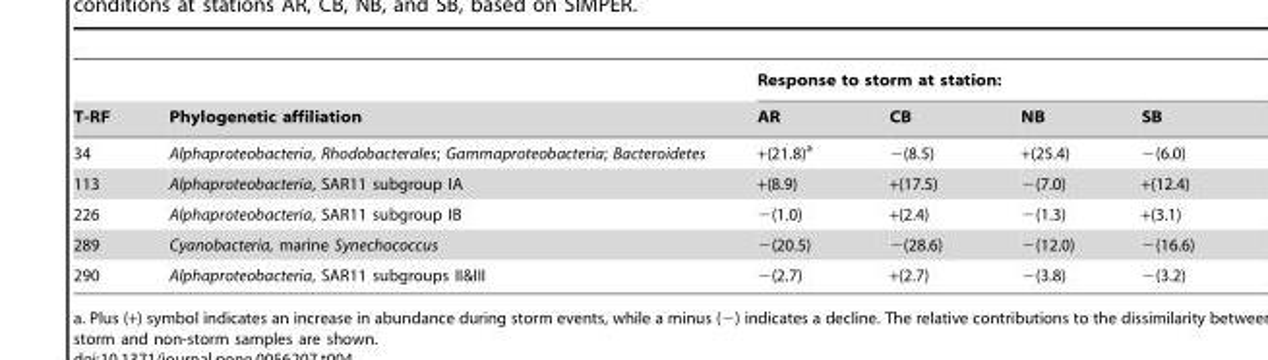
<table><thead><tr><td rowspan="2">T-RF</td><td rowspan="2">Phylogenetic affiliation</td><td colspan="4">Response to storm at station:</td></tr><tr><td>AR</td><td>CB</td><td>NB</td><td>SB</td></tr></thead><tbody><tr><td>34</td><td>Alphaproteobacteria, Rhodobacterales; Gammaproteobacteria; Bacteroidetes</td><td>+(21.8)<sup>a</sup></td><td>−(8.5)</td><td>+(25.4)</td><td>−(6.0)</td></tr><tr><td>113</td><td>Alphaproteobacteria, SAR11 subgroup IA</td><td>+(8.9)</td><td>+(17.5)</td><td>−(7.0)</td><td>+(12.4)</td></tr><tr><td>226</td><td>Alphaproteobacteria, SAR11 subgroup IB</td><td>−(1.0)</td><td>+(2.4)</td><td>−(1.3)</td><td>+(3.1)</td></tr><tr><td>289</td><td>Cyanobacteria, marine Synechococcus</td><td>−(20.5)</td><td>−(28.6)</td><td>−(12.0)</td><td>−(16.6)</td></tr><tr><td>290</td><td>Alphaproteobacteria, SAR11 subgroups II&amp;III</td><td>−(2.7)</td><td>+(2.7)</td><td>−(3.8)</td><td>−(3.2)</td></tr></tbody></table>